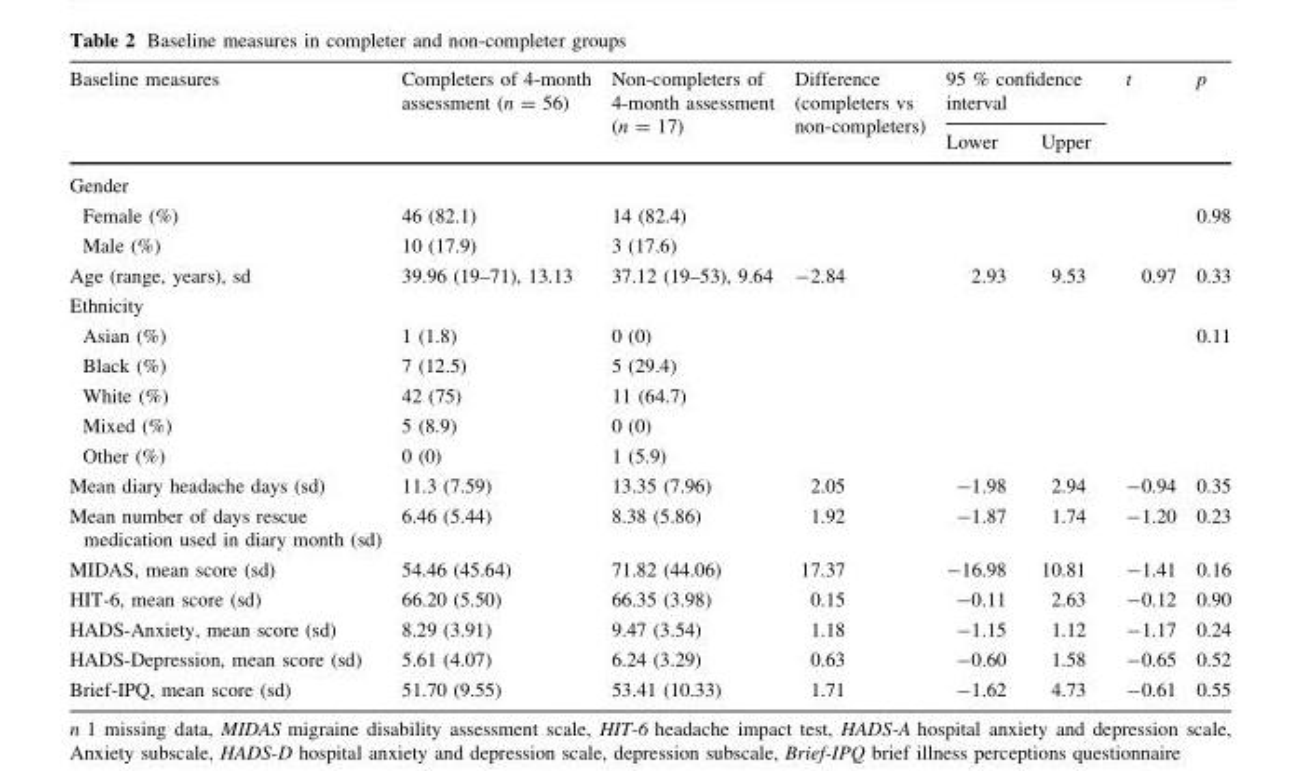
<table><thead><tr><td rowspan="2">Baseline measures</td><td rowspan="2">Completers of 4-month assessment (n = 56)</td><td rowspan="2">Non-completers of 4-month assessment (n = 17)</td><td rowspan="2">Difference (completers vs non-completers)</td><td colspan="2">95 % confidence interval</td><td rowspan="2">t</td><td rowspan="2">p</td></tr><tr><td>Lower</td><td>Upper</td></tr></thead><tbody><tr><td colspan="8">Gender</td></tr><tr><td>Female (%)</td><td>46 (82.1)</td><td>14 (82.4)</td><td></td><td></td><td></td><td></td><td rowspan="2">0.98</td></tr><tr><td>Male (%)</td><td>10 (17.9)</td><td>3 (17.6)</td><td></td><td></td><td></td><td></td></tr><tr><td>Age (range, years), sd</td><td>39.96 (19–71), 13.13</td><td>37.12 (19–53), 9.64</td><td>-2.84</td><td>2.93</td><td>9.53</td><td>0.97</td><td>0.33</td></tr><tr><td colspan="8">Ethnicity</td></tr><tr><td>Asian (%)</td><td>1 (1.8)</td><td>0 (0)</td><td></td><td></td><td></td><td></td><td rowspan="5">0.11</td></tr><tr><td>Black (%)</td><td>7 (12.5)</td><td>5 (29.4)</td><td></td><td></td><td></td><td></td></tr><tr><td>White (%)</td><td>42 (75)</td><td>11 (64.7)</td><td></td><td></td><td></td><td></td></tr><tr><td>Mixed (%)</td><td>5 (8.9)</td><td>0 (0)</td><td></td><td></td><td></td><td></td></tr><tr><td>Other (%)</td><td>0 (0)</td><td>1 (5.9)</td><td></td><td></td><td></td><td></td></tr><tr><td>Mean diary headache days (sd)</td><td>11.3 (7.59)</td><td>13.35 (7.96)</td><td>2.05</td><td>-1.98</td><td>2.94</td><td>-0.94</td><td>0.35</td></tr><tr><td>Mean number of days rescue medication used in diary month (sd)</td><td>6.46 (5.44)</td><td>8.38 (5.86)</td><td>1.92</td><td>-1.87</td><td>1.74</td><td>-1.20</td><td>0.23</td></tr><tr><td>MIDAS, mean score (sd)</td><td>54.46 (45.64)</td><td>71.82 (44.06)</td><td>17.37</td><td>-16.98</td><td>10.81</td><td>-1.41</td><td>0.16</td></tr><tr><td>HIT-6, mean score (sd)</td><td>66.20 (5.50)</td><td>66.35 (3.98)</td><td>0.15</td><td>-0.11</td><td>2.63</td><td>-0.12</td><td>0.90</td></tr><tr><td>HADS-Anxiety, mean score (sd)</td><td>8.29 (3.91)</td><td>9.47 (3.54)</td><td>1.18</td><td>-1.15</td><td>1.12</td><td>-1.17</td><td>0.24</td></tr><tr><td>HADS-Depression, mean score (sd)</td><td>5.61 (4.07)</td><td>6.24 (3.29)</td><td>0.63</td><td>-0.60</td><td>1.58</td><td>-0.65</td><td>0.52</td></tr><tr><td>Brief-IPQ, mean score (sd)</td><td>51.70 (9.55)</td><td>53.41 (10.33)</td><td>1.71</td><td>-1.62</td><td>4.73</td><td>-0.61</td><td>0.55</td></tr></tbody></table>